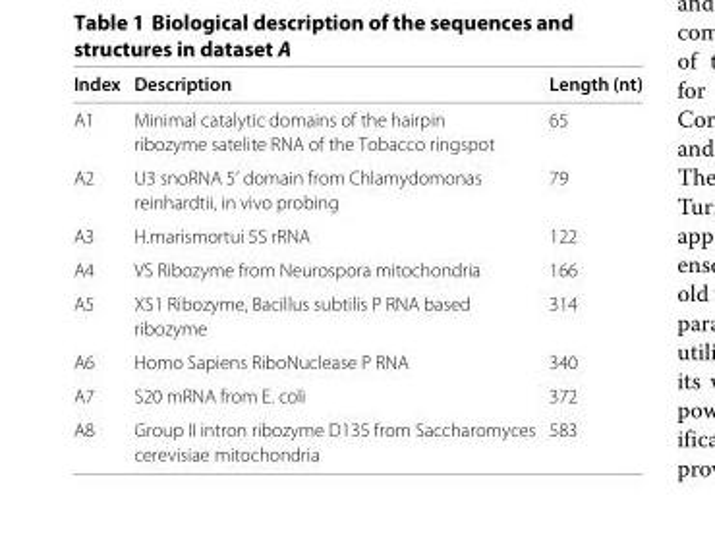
<table><thead><tr><td>Index</td><td>Description</td><td>Length (nt)</td></tr></thead><tbody><tr><td rowspan="2">A1</td><td>Minimal catalytic domains of the hairpin</td><td>65</td></tr><tr><td>ribozyme satelite RNA of the Tobacco ringspot</td><td></td></tr><tr><td rowspan="2">A2</td><td>U3 snoRNA 5’ domain from Chlamydomonas</td><td>79</td></tr><tr><td>reinhardtii, in vivo probing</td><td></td></tr><tr><td>A3</td><td>H.marismortui 5S rRNA</td><td>122</td></tr><tr><td>A4</td><td>VS Ribozyme from Neurospora mitochondria</td><td>166</td></tr><tr><td rowspan="2">A5</td><td>XS1 Ribozyme, Bacillus subtilis P RNA based</td><td>314</td></tr><tr><td>ribozyme</td><td></td></tr><tr><td>A6</td><td>Homo Sapiens RiboNuclease P RNA</td><td>340</td></tr><tr><td>A7</td><td>S20 mRNA from E. coli</td><td>372</td></tr><tr><td rowspan="2">A8</td><td>Group II intron ribozyme D135 from Saccharomyces</td><td>583</td></tr><tr><td>cerevisiae mitochondria</td><td></td></tr></tbody></table>